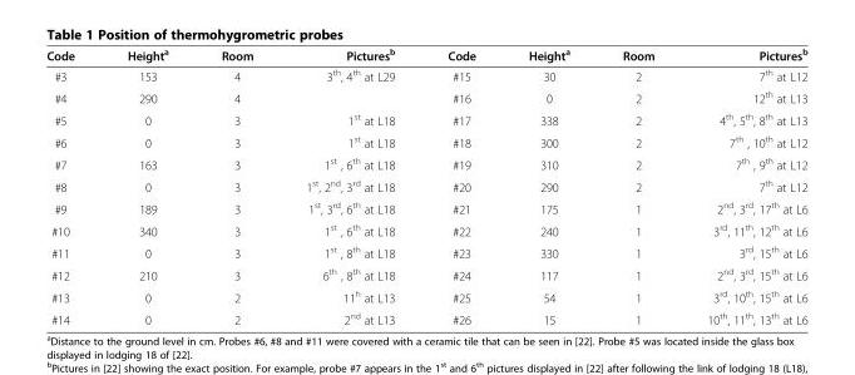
<table><thead><tr><td>Code</td><td>Height<sup>a</sup></td><td>Room</td><td>Pictures<sup>b</sup></td><td>Code</td><td>Height<sup>a</sup></td><td>Room</td><td>Pictures<sup>b</sup></td></tr></thead><tbody><tr><td>#3</td><td>153</td><td>4</td><td>3<sup>th</sup>, 4<sup>th</sup> at L29</td><td>#15</td><td>30</td><td>2</td><td>7<sup>th</sup> at L12</td></tr><tr><td>#4</td><td>290</td><td>4</td><td></td><td>#16</td><td>0</td><td>2</td><td>12<sup>th</sup> at L13</td></tr><tr><td>#5</td><td>0</td><td>3</td><td>1<sup>st</sup> at L18</td><td>#17</td><td>338</td><td>2</td><td>4<sup>th</sup>, 5<sup>th</sup>, 8<sup>th</sup> at L13</td></tr><tr><td>#6</td><td>0</td><td>3</td><td>1<sup>st</sup> at L18</td><td>#18</td><td>300</td><td>2</td><td>7<sup>th</sup> , 10<sup>th</sup> at L12</td></tr><tr><td>#7</td><td>163</td><td>3</td><td>1<sup>st</sup> , 6<sup>th</sup> at L18</td><td>#19</td><td>310</td><td>2</td><td>7<sup>th</sup> , 9<sup>th</sup> at L12</td></tr><tr><td>#8</td><td>0</td><td>3</td><td>1<sup>st</sup>, 2<sup>nd</sup>, 3<sup>rd</sup> at L18</td><td>#20</td><td>290</td><td>2</td><td>7<sup>th</sup> at L12</td></tr><tr><td>#9</td><td>189</td><td>3</td><td>1<sup>st</sup>, 3<sup>rd</sup>, 6<sup>th</sup> at L18</td><td>#21</td><td>175</td><td>1</td><td>2<sup>nd</sup>, 3<sup>rd</sup>, 17<sup>th</sup> at L6</td></tr><tr><td>#10</td><td>340</td><td>3</td><td>1<sup>st</sup> , 6<sup>th</sup> at L18</td><td>#22</td><td>240</td><td>1</td><td>3<sup>rd</sup>, 11<sup>th</sup>, 12<sup>th</sup> at L6</td></tr><tr><td>#11</td><td>0</td><td>3</td><td>1<sup>st</sup> , 8<sup>th</sup> at L18</td><td>#23</td><td>330</td><td>1</td><td>3<sup>rd</sup>, 15<sup>th</sup> at L6</td></tr><tr><td>#12</td><td>210</td><td>3</td><td>6<sup>th</sup> , 8<sup>th</sup> at L18</td><td>#24</td><td>117</td><td>1</td><td>2<sup>nd</sup>, 3<sup>rd</sup>, 15<sup>th</sup> at L6</td></tr><tr><td>#13</td><td>0</td><td>2</td><td>11<sup>h</sup> at L13</td><td>#25</td><td>54</td><td>1</td><td>3<sup>rd</sup>, 10<sup>th</sup>, 15<sup>th</sup> at L6</td></tr><tr><td>#14</td><td>0</td><td>2</td><td>2<sup>nd</sup> at L13</td><td>#26</td><td>15</td><td>1</td><td>10<sup>th</sup>, 11<sup>th</sup>, 13<sup>th</sup> at L6</td></tr></tbody></table>